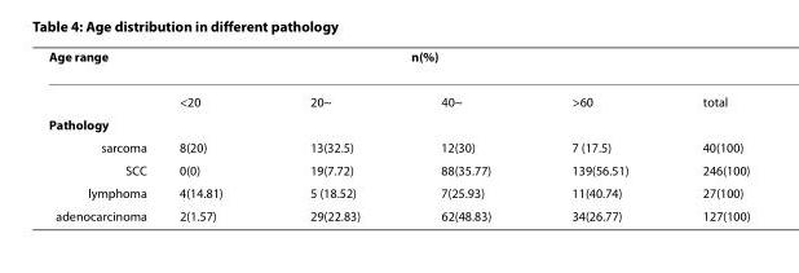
<table><thead><tr><td rowspan="2">Age range</td><td colspan="4">n(%)</td><td rowspan="2">total</td></tr><tr><td>&lt;20</td><td>20~</td><td>40~</td><td>&gt;60</td></tr></thead><tbody><tr><td colspan="6">Pathology</td></tr><tr><td>sarcoma</td><td>8(20)</td><td>13(32.5)</td><td>12(30)</td><td>7 (17.5)</td><td>40(100)</td></tr><tr><td>SCC</td><td>0(0)</td><td>19(7.72)</td><td>88(35.77)</td><td>139(56.51)</td><td>246(100)</td></tr><tr><td>lymphoma</td><td>4(14.81)</td><td>5 (18.52)</td><td>7(25.93)</td><td>11(40.74)</td><td>27(100)</td></tr><tr><td>adenocarcinoma</td><td>2(1.57)</td><td>29(22.83)</td><td>62(48.83)</td><td>34(26.77)</td><td>127(100)</td></tr></tbody></table>